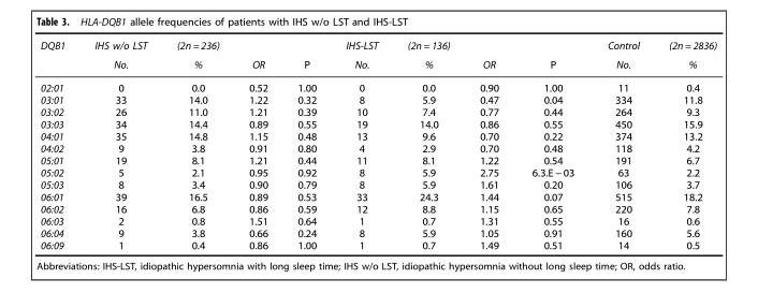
<table><thead><tr><td rowspan="2">DQB1</td><td rowspan="2">IHS w/o LST No.</td><td rowspan="2">(2n = 236) %</td><td rowspan="2">OR</td><td rowspan="2">P</td><td rowspan="2">IHS-LST No.</td><td rowspan="2">(2n = 136) %</td><td rowspan="2">OR</td><td rowspan="2">P</td><td rowspan="2">Control No.</td><td rowspan="2">(2n = 2836) %</td></tr><tr></tr></thead><tbody><tr><td>02:01</td><td>0</td><td>0.0</td><td>0.52</td><td>1.00</td><td>0</td><td>0.0</td><td>0.90</td><td>1.00</td><td>11</td><td>0.4</td></tr><tr><td>03:01</td><td>33</td><td>14.0</td><td>1.22</td><td>0.32</td><td>8</td><td>5.9</td><td>0.47</td><td>0.04</td><td>334</td><td>11.8</td></tr><tr><td>03:02</td><td>26</td><td>11.0</td><td>1.21</td><td>0.39</td><td>10</td><td>7.4</td><td>0.77</td><td>0.44</td><td>264</td><td>9.3</td></tr><tr><td>03:03</td><td>34</td><td>14.4</td><td>0.89</td><td>0.55</td><td>19</td><td>14.0</td><td>0.86</td><td>0.55</td><td>450</td><td>15.9</td></tr><tr><td>04:01</td><td>35</td><td>14.8</td><td>1.15</td><td>0.48</td><td>13</td><td>9.6</td><td>0.70</td><td>0.22</td><td>374</td><td>13.2</td></tr><tr><td>04:02</td><td>9</td><td>3.8</td><td>0.91</td><td>0.80</td><td>4</td><td>2.9</td><td>0.70</td><td>0.48</td><td>118</td><td>4.2</td></tr><tr><td>05:01</td><td>19</td><td>8.1</td><td>1.21</td><td>0.44</td><td>11</td><td>8.1</td><td>1.22</td><td>0.54</td><td>191</td><td>6.7</td></tr><tr><td>05:02</td><td>5</td><td>2.1</td><td>0.95</td><td>0.92</td><td>8</td><td>5.9</td><td>2.75</td><td>6.3.E − 03</td><td>63</td><td>2.2</td></tr><tr><td>05:03</td><td>8</td><td>3.4</td><td>0.90</td><td>0.79</td><td>8</td><td>5.9</td><td>1.61</td><td>0.20</td><td>106</td><td>3.7</td></tr><tr><td>06:01</td><td>39</td><td>16.5</td><td>0.89</td><td>0.53</td><td>33</td><td>24.3</td><td>1.44</td><td>0.07</td><td>515</td><td>18.2</td></tr><tr><td>06:02</td><td>16</td><td>6.8</td><td>0.86</td><td>0.59</td><td>12</td><td>8.8</td><td>1.15</td><td>0.65</td><td>220</td><td>7.8</td></tr><tr><td>06:03</td><td>2</td><td>0.8</td><td>1.51</td><td>0.64</td><td>1</td><td>0.7</td><td>1.31</td><td>0.55</td><td>16</td><td>0.6</td></tr><tr><td>06:04</td><td>9</td><td>3.8</td><td>0.66</td><td>0.24</td><td>8</td><td>5.9</td><td>1.05</td><td>0.91</td><td>160</td><td>5.6</td></tr><tr><td>06:09</td><td>1</td><td>0.4</td><td>0.86</td><td>1.00</td><td>1</td><td>0.7</td><td>1.49</td><td>0.51</td><td>14</td><td>0.5</td></tr></tbody></table>